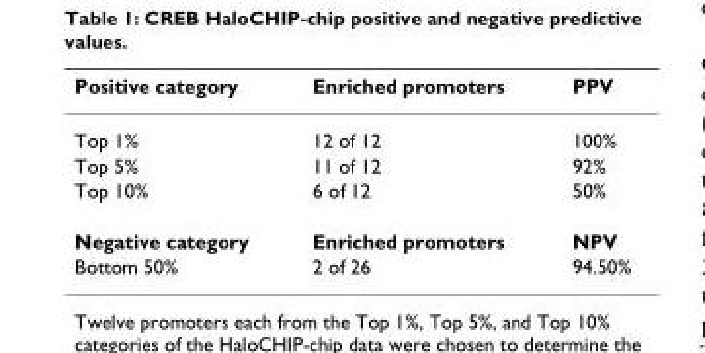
<table><thead><tr><td>Positive category</td><td>Enriched promoters</td><td>PPV</td></tr></thead><tbody><tr><td>Top 1%</td><td>12 of 12</td><td>100%</td></tr><tr><td>Top 5%</td><td>11 of 12</td><td>92%</td></tr><tr><td>Top 10%</td><td>6 of 12</td><td>50%</td></tr><tr><td>Negative category</td><td>Enriched promoters</td><td>NPV</td></tr><tr><td>Bottom 50%</td><td>2 of 26</td><td>94.50%</td></tr></tbody></table>